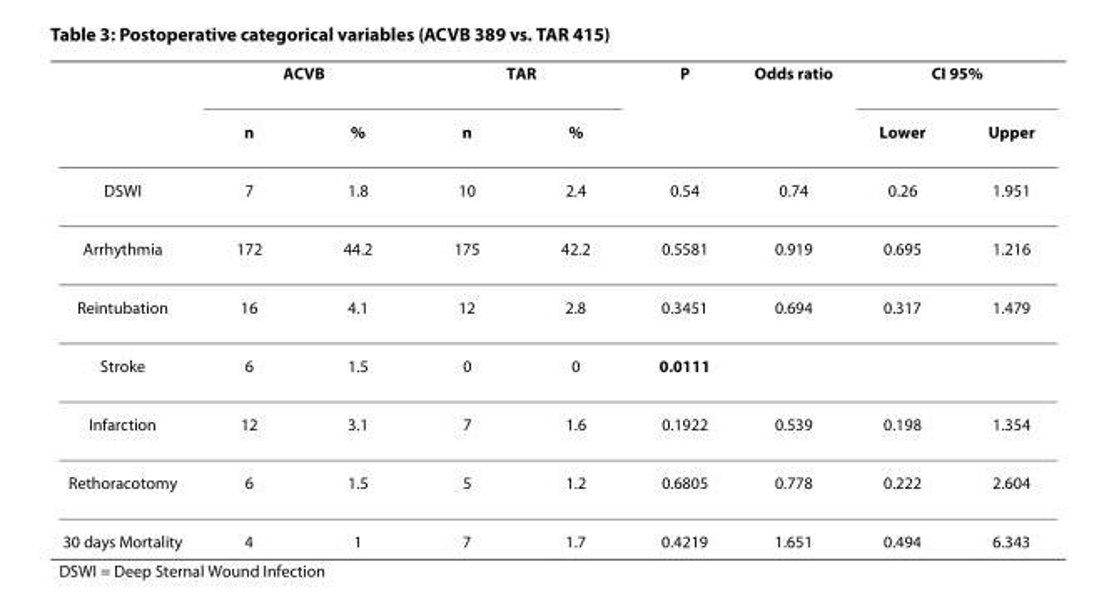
<table><thead><tr><td rowspan="2"></td><td colspan="2">ACVB</td><td colspan="2">TAR</td><td rowspan="2">P</td><td rowspan="2">Odds ratio</td><td colspan="2">CI 95%</td></tr><tr><td>n</td><td>%</td><td>n</td><td>%</td><td>Lower</td><td>Upper</td></tr></thead><tbody><tr><td>DSWI</td><td>7</td><td>1.8</td><td>10</td><td>2.4</td><td>0.54</td><td>0.74</td><td>0.26</td><td>1.951</td></tr><tr><td>Arrhythmia</td><td>172</td><td>44.2</td><td>175</td><td>42.2</td><td>0.5581</td><td>0.919</td><td>0.695</td><td>1.216</td></tr><tr><td>Reintubation</td><td>16</td><td>4.1</td><td>12</td><td>2.8</td><td>0.3451</td><td>0.694</td><td>0.317</td><td>1.479</td></tr><tr><td>Stroke</td><td>6</td><td>1.5</td><td>0</td><td>0</td><td>0.0111</td><td></td><td></td><td></td></tr><tr><td>Infarction</td><td>12</td><td>3.1</td><td>7</td><td>1.6</td><td>0.1922</td><td>0.539</td><td>0.198</td><td>1.354</td></tr><tr><td>Rethoracotomy</td><td>6</td><td>1.5</td><td>5</td><td>1.2</td><td>0.6805</td><td>0.778</td><td>0.222</td><td>2.604</td></tr><tr><td>30 days Mortality</td><td>4</td><td>1</td><td>7</td><td>1.7</td><td>0.4219</td><td>1.651</td><td>0.494</td><td>6.343</td></tr></tbody></table>